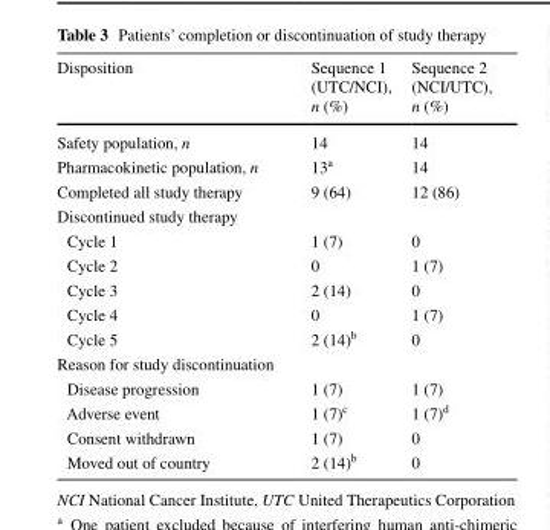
<table><thead><tr><td>Disposition</td><td>Sequence 1 (UTC/NCI), n (%)</td><td>Sequence 2 (NCI/UTC), n (%)</td></tr></thead><tbody><tr><td>Safety population, n</td><td>14</td><td>14</td></tr><tr><td>Pharmacokinetic population, n</td><td>13<sup>a</sup></td><td>14</td></tr><tr><td>Completed all study therapy</td><td>9 (64)</td><td>12 (86)</td></tr><tr><td colspan="3">Discontinued study therapy</td></tr><tr><td>Cycle 1</td><td>1 (7)</td><td>0</td></tr><tr><td>Cycle 2</td><td>0</td><td>1 (7)</td></tr><tr><td>Cycle 3</td><td>2 (14)</td><td>0</td></tr><tr><td>Cycle 4</td><td>0</td><td>1 (7)</td></tr><tr><td>Cycle 5</td><td>2 (14)<sup>b</sup></td><td>0</td></tr><tr><td colspan="3">Reason for study discontinuation</td></tr><tr><td>Disease progression</td><td>1 (7)</td><td>1 (7)</td></tr><tr><td>Adverse event</td><td>1 (7)<sup>c</sup></td><td>1 (7)<sup>d</sup></td></tr><tr><td>Consent withdrawn</td><td>1 (7)</td><td>0</td></tr><tr><td>Moved out of country</td><td>2 (14)<sup>b</sup></td><td>0</td></tr></tbody></table>